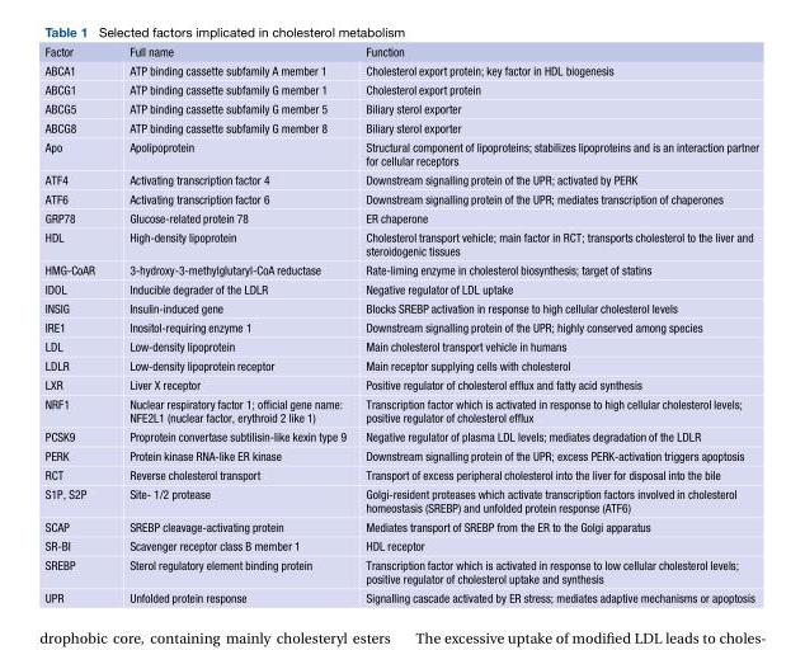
<table><thead><tr><td>Factor</td><td>Full name</td><td>Function</td></tr></thead><tbody><tr><td>ABCA1</td><td>ATP binding cassette subfamily A member 1</td><td>Cholesterol export protein; key factor in HDL biogenesis</td></tr><tr><td>ABCG1</td><td>ATP binding cassette subfamily G member 1</td><td>Cholesterol export protein</td></tr><tr><td>ABCG5</td><td>ATP binding cassette subfamily G member 5</td><td>Biliary sterol exporter</td></tr><tr><td>ABCG8</td><td>ATP binding cassette subfamily G member 8</td><td>Biliary sterol exporter</td></tr><tr><td>Apo</td><td>Apolipoprotein</td><td>Structural component of lipoproteins; stabilizes lipoproteins and is an interaction partner for cellular receptors</td></tr><tr><td>ATF4</td><td>Activating transcription factor 4</td><td>Downstream signalling protein of the UPR; activated by PERK</td></tr><tr><td>ATF6</td><td>Activating transcription factor 6</td><td>Downstream signalling protein of the UPR; mediates transcription of chaperones</td></tr><tr><td>GRP78</td><td>Glucose-related protein 78</td><td>ER chaperone</td></tr><tr><td>HDL</td><td>High-density lipoprotein</td><td>Cholesterol transport vehicle; main factor in RCT; transports cholesterol to the liver and steroidogenic tissues</td></tr><tr><td>HMG-CoAR</td><td>3-hydroxy-3-methylglutaryl-CoA reductase</td><td>Rate-liming enzyme in cholesterol biosynthesis; target of statins</td></tr><tr><td>IDOL</td><td>Inducible degrader of the LDLR</td><td>Negative regulator of LDL uptake</td></tr><tr><td>INSIG</td><td>Insulin-induced gene</td><td>Blocks SREBP activation in response to high cellular cholesterol levels</td></tr><tr><td>IRE1</td><td>Inositol-requiring enzyme 1</td><td>Downstream signalling protein of the UPR; highly conserved among species</td></tr><tr><td>LDL</td><td>Low-density lipoprotein</td><td>Main cholesterol transport vehicle in humans</td></tr><tr><td>LDLR</td><td>Low-density lipoprotein receptor</td><td>Main receptor supplying cells with cholesterol</td></tr><tr><td>LXR</td><td>Liver X receptor</td><td>Positive regulator of cholesterol efflux and fatty acid synthesis</td></tr><tr><td>NRF1</td><td>Nuclear respiratory factor 1; official gene name: NFE2L1 (nuclear factor, erythroid 2 like 1)</td><td>Transcription factor which is activated in response to high cellular cholesterol levels; positive regulator of cholesterol efflux</td></tr><tr><td>PCSK9</td><td>Proprotein convertase subtilisin-like kexin type 9</td><td>Negative regulator of plasma LDL levels; mediates degradation of the LDLR</td></tr><tr><td>PERK</td><td>Protein kinase RNA-like ER kinase</td><td>Downstream signalling protein of the UPR; excess PERK-activation triggers apoptosis</td></tr><tr><td>RCT</td><td>Reverse cholesterol transport</td><td>Transport of excess peripheral cholesterol into the liver for disposal into the bile</td></tr><tr><td>S1P, S2P</td><td>Site- 1/2 protease</td><td>Golgi-resident proteases which activate transcription factors involved in cholesterol homeostasis (SREBP) and unfolded protein response (ATF6)</td></tr><tr><td>SCAP</td><td>SREBP cleavage-activating protein</td><td>Mediates transport of SREBP from the ER to the Golgi apparatus</td></tr><tr><td>SR-BI</td><td>Scavenger receptor class B member 1</td><td>HDL receptor</td></tr><tr><td>SREBP</td><td>Sterol regulatory element binding protein</td><td>Transcription factor which is activated in response to low cellular cholesterol levels; positive regulator of cholesterol uptake and synthesis</td></tr><tr><td>UPR</td><td>Unfolded protein response</td><td>Signalling cascade activated by ER stress; mediates adaptive mechanisms or apoptosis</td></tr></tbody></table>